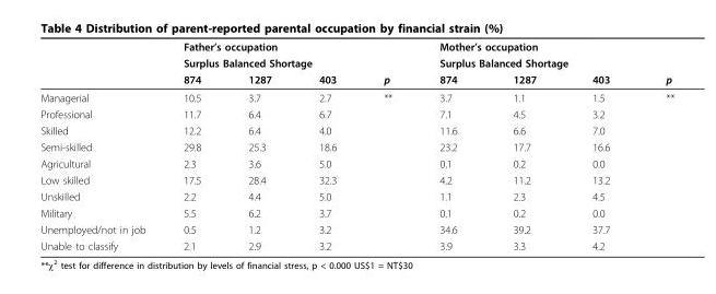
<table><thead><tr><td rowspan="3"></td><td rowspan="2" colspan="4">Father’s occupation Surplus Balanced Shortage</td><td rowspan="2" colspan="3">Mother’s occupation Surplus Balanced Shortage</td><td rowspan="3">p</td></tr><tr></tr><tr><td>874</td><td>1287</td><td>403</td><td>p</td><td>874</td><td>1287</td><td>403</td></tr></thead><tbody><tr><td>Managerial</td><td>10.5</td><td>3.7</td><td>2.7</td><td>**</td><td>3.7</td><td>1.1</td><td>1.5</td><td>**</td></tr><tr><td>Professional</td><td>11.7</td><td>6.4</td><td>6.7</td><td></td><td>7.1</td><td>4.5</td><td>3.2</td><td></td></tr><tr><td>Skilled</td><td>12.2</td><td>6.4</td><td>4.0</td><td></td><td>11.6</td><td>6.6</td><td>7.0</td><td></td></tr><tr><td>Semi-skilled</td><td>29.8</td><td>25.3</td><td>18.6</td><td></td><td>23.2</td><td>17.7</td><td>16.6</td><td></td></tr><tr><td>Agricultural</td><td>2.3</td><td>3.6</td><td>5.0</td><td></td><td>0.1</td><td>0.2</td><td>0.0</td><td></td></tr><tr><td>Low skilled</td><td>17.5</td><td>28.4</td><td>32.3</td><td></td><td>4.2</td><td>11.2</td><td>13.2</td><td></td></tr><tr><td>Unskilled</td><td>2.2</td><td>4.4</td><td>5.0</td><td></td><td>1.1</td><td>2.3</td><td>4.5</td><td></td></tr><tr><td>Military</td><td>5.5</td><td>6.2</td><td>3.7</td><td></td><td>0.1</td><td>0.2</td><td>0.0</td><td></td></tr><tr><td>Unemployed/not in job</td><td>0.5</td><td>1.2</td><td>3.2</td><td></td><td>34.6</td><td>39.2</td><td>37.7</td><td></td></tr><tr><td>Unable to classify</td><td>2.1</td><td>2.9</td><td>3.2</td><td></td><td>3.9</td><td>3.3</td><td>4.2</td><td></td></tr></tbody></table>